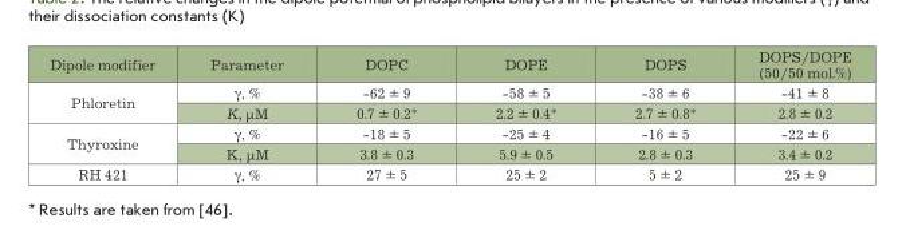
<table><thead><tr><td>Dipole modifier</td><td>Parameter</td><td>DOPC</td><td>DOPE</td><td>DOPS</td><td>DOPS/DOPE (50/50 mol.%)</td></tr></thead><tbody><tr><td rowspan="2">Phloretin</td><td>γ, %</td><td>-62 ± 9</td><td>-58 ± 5</td><td>-38 ± 6</td><td>-41 ± 8</td></tr><tr><td>K, µM</td><td>0.7 ± 0.2*</td><td>2.2 ± 0.4*</td><td>2.7 ± 0.8*</td><td>2.8 ± 0.2</td></tr><tr><td rowspan="2">Thyroxine</td><td>γ, %</td><td>-18 ± 5</td><td>-25 ± 4</td><td>-16 ± 5</td><td>-22 ± 6</td></tr><tr><td>K, µM</td><td>3.8 ± 0.3</td><td>5.9 ± 0.5</td><td>2.8 ± 0.3</td><td>3.4 ± 0.2</td></tr><tr><td>RH 421</td><td>γ, %</td><td>27 ± 5</td><td>25 ± 2</td><td>5 ± 2</td><td>25 ± 9</td></tr></tbody></table>